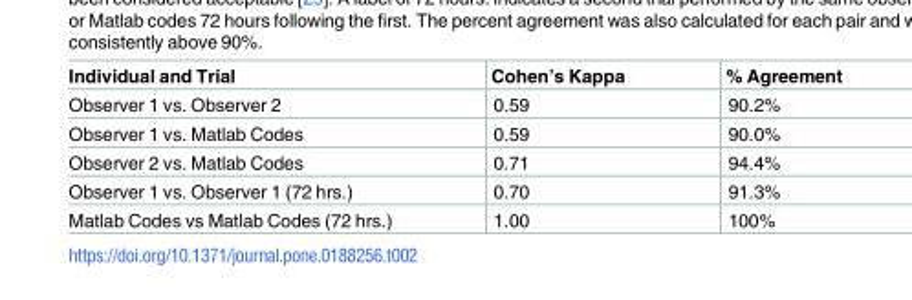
<table><thead><tr><td>Individual and Trial</td><td>Cohen’s Kappa</td><td>% Agreement</td></tr></thead><tbody><tr><td>Observer 1 vs. Observer 2</td><td>0.59</td><td>90.2%</td></tr><tr><td>Observer 1 vs. Matlab Codes</td><td>0.59</td><td>90.0%</td></tr><tr><td>Observer 2 vs. Matlab Codes</td><td>0.71</td><td>94.4%</td></tr><tr><td>Observer 1 vs. Observer 1 (72 hrs.)</td><td>0.70</td><td>91.3%</td></tr><tr><td>Matlab Codes vs Matlab Codes (72 hrs.)</td><td>1.00</td><td>100%</td></tr></tbody></table>